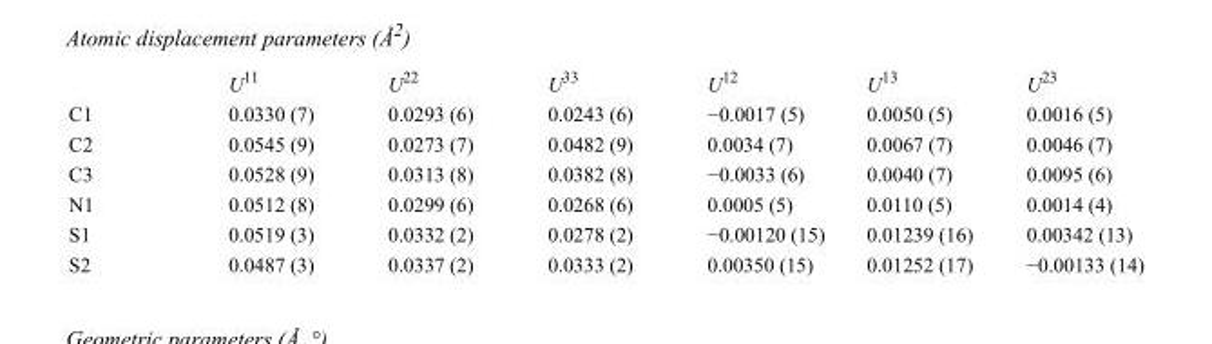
<table><thead><tr><td></td><td>U<sup>11</sup></td><td>U<sup>22</sup></td><td>U<sup>33</sup></td><td>U<sup>12</sup></td><td>U<sup>13</sup></td><td>U<sup>23</sup></td></tr></thead><tbody><tr><td>C1</td><td>0.0330 (7)</td><td>0.0293 (6)</td><td>0.0243 (6)</td><td>−0.0017 (5)</td><td>0.0050 (5)</td><td>0.0016 (5)</td></tr><tr><td>C2</td><td>0.0545 (9)</td><td>0.0273 (7)</td><td>0.0482 (9)</td><td>0.0034 (7)</td><td>0.0067 (7)</td><td>0.0046 (7)</td></tr><tr><td>C3</td><td>0.0528 (9)</td><td>0.0313 (8)</td><td>0.0382 (8)</td><td>−0.0033 (6)</td><td>0.0040 (7)</td><td>0.0095 (6)</td></tr><tr><td>N1</td><td>0.0512 (8)</td><td>0.0299 (6)</td><td>0.0268 (6)</td><td>0.0005 (5)</td><td>0.0110 (5)</td><td>0.0014 (4)</td></tr><tr><td>S1</td><td>0.0519 (3)</td><td>0.0332 (2)</td><td>0.0278 (2)</td><td>−0.00120 (15)</td><td>0.01239 (16)</td><td>0.00342 (13)</td></tr><tr><td>S2</td><td>0.0487 (3)</td><td>0.0337 (2)</td><td>0.0333 (2)</td><td>0.00350 (15)</td><td>0.01252 (17)</td><td>−0.00133 (14)</td></tr></tbody></table>